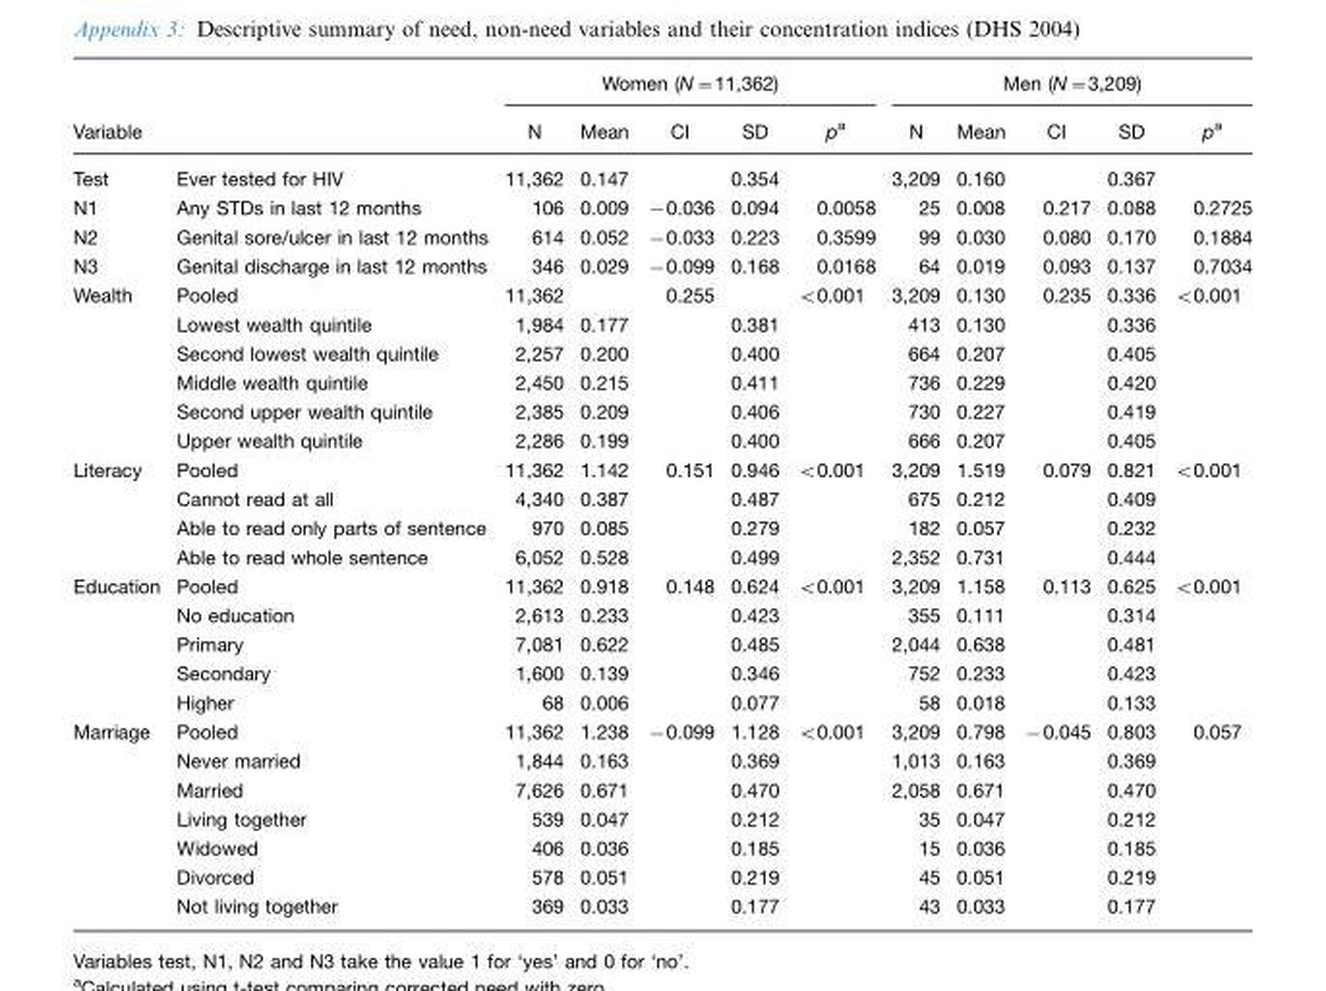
<table><thead><tr><td rowspan="2">Variable</td><td rowspan="2"></td><td colspan="5">Women (N=11,362)</td><td colspan="5">Men (N=3,209)</td></tr><tr><td>N</td><td>Mean</td><td>CI</td><td>SD</td><td>p<sup>a</sup></td><td>N</td><td>Mean</td><td>CI</td><td>SD</td><td>p<sup>a</sup></td></tr></thead><tbody><tr><td>Test</td><td>Ever tested for HIV</td><td>11,362</td><td>0.147</td><td></td><td>0.354</td><td></td><td>3,209</td><td>0.160</td><td></td><td>0.367</td><td></td></tr><tr><td>N1</td><td>Any STDs in last 12 months</td><td>106</td><td>0.009</td><td>−0.036</td><td>0.094</td><td>0.0058</td><td>25</td><td>0.008</td><td>0.217</td><td>0.088</td><td>0.2725</td></tr><tr><td>N2</td><td>Genital sore/ulcer in last 12 months</td><td>614</td><td>0.052</td><td>−0.033</td><td>0.223</td><td>0.3599</td><td>99</td><td>0.030</td><td>0.080</td><td>0.170</td><td>0.1884</td></tr><tr><td>N3</td><td>Genital discharge in last 12 months</td><td>346</td><td>0.029</td><td>−0.099</td><td>0.168</td><td>0.0168</td><td>64</td><td>0.019</td><td>0.093</td><td>0.137</td><td>0.7034</td></tr><tr><td rowspan="6">Wealth</td><td>Pooled</td><td>11,362</td><td></td><td>0.255</td><td></td><td>&lt;0.001</td><td>3,209</td><td>0.130</td><td>0.235</td><td>0.336</td><td>&lt;0.001</td></tr><tr><td>Lowest wealth quintile</td><td>1,984</td><td>0.177</td><td></td><td>0.381</td><td></td><td>413</td><td>0.130</td><td></td><td>0.336</td><td></td></tr><tr><td>Second lowest wealth quintile</td><td>2,257</td><td>0.200</td><td></td><td>0.400</td><td></td><td>664</td><td>0.207</td><td></td><td>0.405</td><td></td></tr><tr><td>Middle wealth quintile</td><td>2,450</td><td>0.215</td><td></td><td>0.411</td><td></td><td>736</td><td>0.229</td><td></td><td>0.420</td><td></td></tr><tr><td>Second upper wealth quintile</td><td>2,385</td><td>0.209</td><td></td><td>0.406</td><td></td><td>730</td><td>0.227</td><td></td><td>0.419</td><td></td></tr><tr><td>Upper wealth quintile</td><td>2,286</td><td>0.199</td><td></td><td>0.400</td><td></td><td>666</td><td>0.207</td><td></td><td>0.405</td><td></td></tr><tr><td rowspan="4">Literacy</td><td>Pooled</td><td>11,362</td><td>1.142</td><td>0.151</td><td>0.946</td><td>&lt;0.001</td><td>3,209</td><td>1.519</td><td>0.079</td><td>0.821</td><td>&lt;0.001</td></tr><tr><td>Cannot read at all</td><td>4,340</td><td>0.387</td><td></td><td>0.487</td><td></td><td>675</td><td>0.212</td><td></td><td>0.409</td><td></td></tr><tr><td>Able to read only parts of sentence</td><td>970</td><td>0.085</td><td></td><td>0.279</td><td></td><td>182</td><td>0.057</td><td></td><td>0.232</td><td></td></tr><tr><td>Able to read whole sentence</td><td>6,052</td><td>0.528</td><td></td><td>0.499</td><td></td><td>2,352</td><td>0.731</td><td></td><td>0.444</td><td></td></tr><tr><td rowspan="5">Education</td><td>Pooled</td><td>11,362</td><td>0.918</td><td>0.148</td><td>0.624</td><td>&lt;0.001</td><td>3,209</td><td>1.158</td><td>0.113</td><td>0.625</td><td>&lt;0.001</td></tr><tr><td>No education</td><td>2,613</td><td>0.233</td><td></td><td>0.423</td><td></td><td>355</td><td>0.111</td><td></td><td>0.314</td><td></td></tr><tr><td>Primary</td><td>7,081</td><td>0.622</td><td></td><td>0.485</td><td></td><td>2,044</td><td>0.638</td><td></td><td>0.481</td><td></td></tr><tr><td>Secondary</td><td>1,600</td><td>0.139</td><td></td><td>0.346</td><td></td><td>752</td><td>0.233</td><td></td><td>0.423</td><td></td></tr><tr><td>Higher</td><td>68</td><td>0.006</td><td></td><td>0.077</td><td></td><td>58</td><td>0.018</td><td></td><td>0.133</td><td></td></tr><tr><td rowspan="7">Marriage</td><td>Pooled</td><td>11,362</td><td>1.238</td><td>−0.099</td><td>1.128</td><td>&lt;0.001</td><td>3,209</td><td>0.798</td><td>−0.045</td><td>0.803</td><td>0.057</td></tr><tr><td>Never married</td><td>1,844</td><td>0.163</td><td></td><td>0.369</td><td></td><td>1,013</td><td>0.163</td><td></td><td>0.369</td><td></td></tr><tr><td>Married</td><td>7,626</td><td>0.671</td><td></td><td>0.470</td><td></td><td>2,058</td><td>0.671</td><td></td><td>0.470</td><td></td></tr><tr><td>Living together</td><td>539</td><td>0.047</td><td></td><td>0.212</td><td></td><td>35</td><td>0.047</td><td></td><td>0.212</td><td></td></tr><tr><td>Widowed</td><td>406</td><td>0.036</td><td></td><td>0.185</td><td></td><td>15</td><td>0.036</td><td></td><td>0.185</td><td></td></tr><tr><td>Divorced</td><td>578</td><td>0.051</td><td></td><td>0.219</td><td></td><td>45</td><td>0.051</td><td></td><td>0.219</td><td></td></tr><tr><td>Not living together</td><td>369</td><td>0.033</td><td></td><td>0.177</td><td></td><td>43</td><td>0.033</td><td></td><td>0.177</td><td></td></tr></tbody></table>